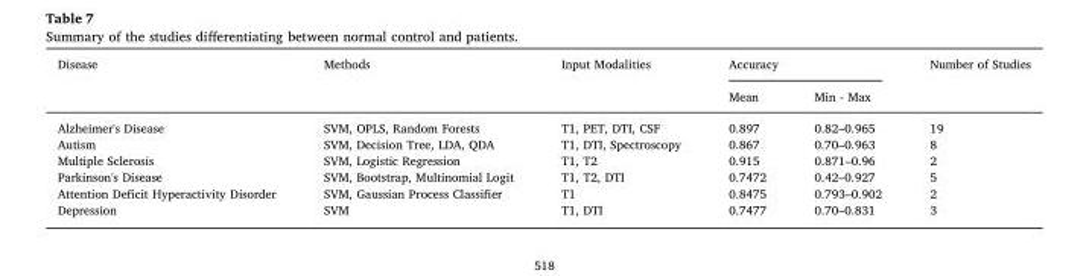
<table><thead><tr><td rowspan="2">Disease</td><td rowspan="2">Methods</td><td rowspan="2">Input Modalities</td><td colspan="2">Accuracy</td><td rowspan="2">Number of Studies</td></tr><tr><td>Mean</td><td>Min - Max</td></tr></thead><tbody><tr><td>Alzheimer&#x27;s Disease</td><td>SVM, OPLS, Random Forests</td><td>T1, PET, DTI, CSF</td><td>0.897</td><td>0.82–0.965</td><td>19</td></tr><tr><td>Autism</td><td>SVM, Decision Tree, LDA, QDA</td><td>T1, DTI, Spectroscopy</td><td>0.867</td><td>0.70–0.963</td><td>8</td></tr><tr><td>Multiple Sclerosis</td><td>SVM, Logistic Regression</td><td>T1, T2</td><td>0.915</td><td>0.871–0.96</td><td>2</td></tr><tr><td>Parkinson&#x27;s Disease</td><td>SVM, Bootstrap, Multinomial Logit</td><td>T1, T2, DTI</td><td>0.7472</td><td>0.42–0.927</td><td>5</td></tr><tr><td>Attention Deficit Hyperactivity Disorder</td><td>SVM, Gaussian Process Classifier</td><td>T1</td><td>0.8475</td><td>0.793–0.902</td><td>2</td></tr><tr><td>Depression</td><td>SVM</td><td>T1, DTI</td><td>0.7477</td><td>0.70–0.831</td><td>3</td></tr></tbody></table>